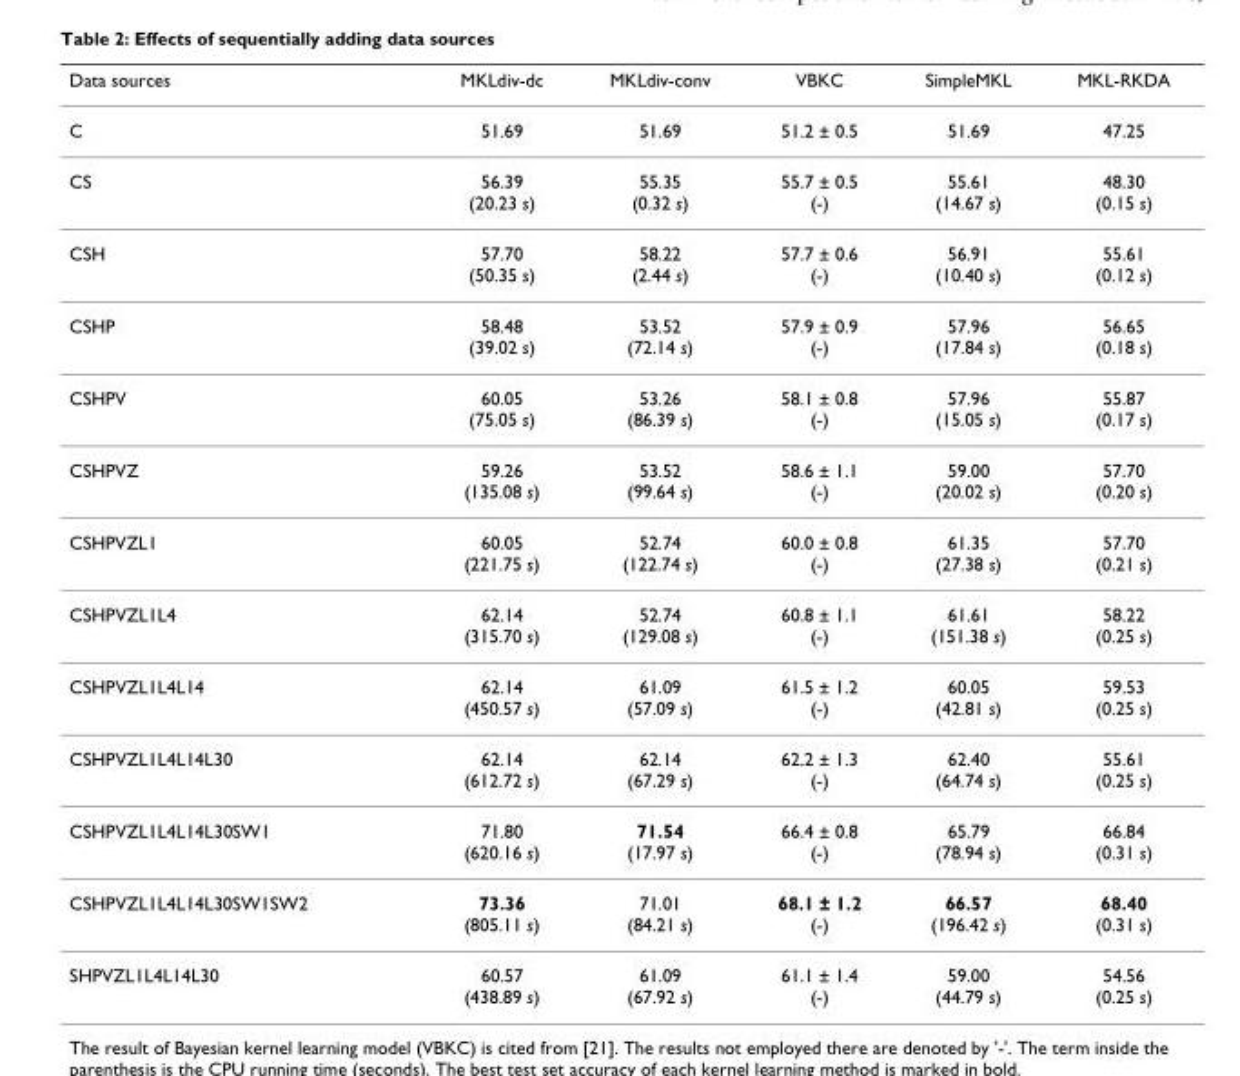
<table><thead><tr><td>Data sources</td><td>MKLdiv-dc</td><td>MKLdiv-conv</td><td>VBKC</td><td>SimpleMKL</td><td>MKL-RKDA</td></tr></thead><tbody><tr><td>C</td><td>51.69</td><td>51.69</td><td>51.2 ± 0.5</td><td>51.69</td><td>47.25</td></tr><tr><td>CS</td><td>56.39 (20.23 s)</td><td>55.35 (0.32 s)</td><td>55.7 ± 0.5 (-)</td><td>55.61 (14.67 s)</td><td>48.30 (0.15 s)</td></tr><tr><td>CSH</td><td>57.70 (50.35 s)</td><td>58.22 (2.44 s)</td><td>57.7 ± 0.6 (-)</td><td>56.91 (10.40 s)</td><td>55.61 (0.12 s)</td></tr><tr><td>CSHP</td><td>58.48 (39.02 s)</td><td>53.52 (72.14 s)</td><td>57.9 ± 0.9 (-)</td><td>57.96 (17.84 s)</td><td>56.65 (0.18 s)</td></tr><tr><td>CSHPV</td><td>60.05 (75.05 s)</td><td>53.26 (86.39 s)</td><td>58.1 ± 0.8 (-)</td><td>57.96 (15.05 s)</td><td>55.87 (0.17 s)</td></tr><tr><td>CSHPVZ</td><td>59.26 (135.08 s)</td><td>53.52 (99.64 s)</td><td>58.6 ± 1.1 (-)</td><td>59.00 (20.02 s)</td><td>57.70 (0.20 s)</td></tr><tr><td>CSHPVZL1</td><td>60.05 (221.75 s)</td><td>52.74 (122.74 s)</td><td>60.0 ± 0.8 (-)</td><td>61.35 (27.38 s)</td><td>57.70 (0.21 s)</td></tr><tr><td>CSHPVZL1L4</td><td>62.14 (315.70 s)</td><td>52.74 (129.08 s)</td><td>60.8 ± 1.1 (-)</td><td>61.61 (151.38 s)</td><td>58.22 (0.25 s)</td></tr><tr><td>CSHPVZL1L4L14</td><td>62.14 (450.57 s)</td><td>61.09 (57.09 s)</td><td>61.5 ± 1.2 (-)</td><td>60.05 (42.81 s)</td><td>59.53 (0.25 s)</td></tr><tr><td>CSHPVZL1L4L14L30</td><td>62.14 (612.72 s)</td><td>62.14 (67.29 s)</td><td>62.2 ± 1.3 (-)</td><td>62.40 (64.74 s)</td><td>55.61 (0.25 s)</td></tr><tr><td>CSHPVZL1L4L14L30SW1</td><td>71.80 (620.16 s)</td><td>71.54 (17.97 s)</td><td>66.4 ± 0.8 (-)</td><td>65.79 (78.94 s)</td><td>66.84 (0.31 s)</td></tr><tr><td>CSHPVZL1L4L14L30SW1SW2</td><td>73.36 (805.11 s)</td><td>71.01 (84.21 s)</td><td>68.1 ± 1.2 (-)</td><td>66.57 (196.42 s)</td><td>68.40 (0.31 s)</td></tr><tr><td>SHPVZL1L4L14L30</td><td>60.57 (438.89 s)</td><td>61.09 (67.92 s)</td><td>61.1 ± 1.4 (-)</td><td>59.00 (44.79 s)</td><td>54.56 (0.25 s)</td></tr></tbody></table>